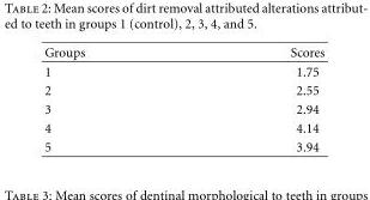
<table><thead><tr><td>Groups</td><td>Scores</td></tr></thead><tbody><tr><td>1</td><td>1.75</td></tr><tr><td>2</td><td>2.55</td></tr><tr><td>3</td><td>2.94</td></tr><tr><td>4</td><td>4.14</td></tr><tr><td>5</td><td>3.94</td></tr></tbody></table>